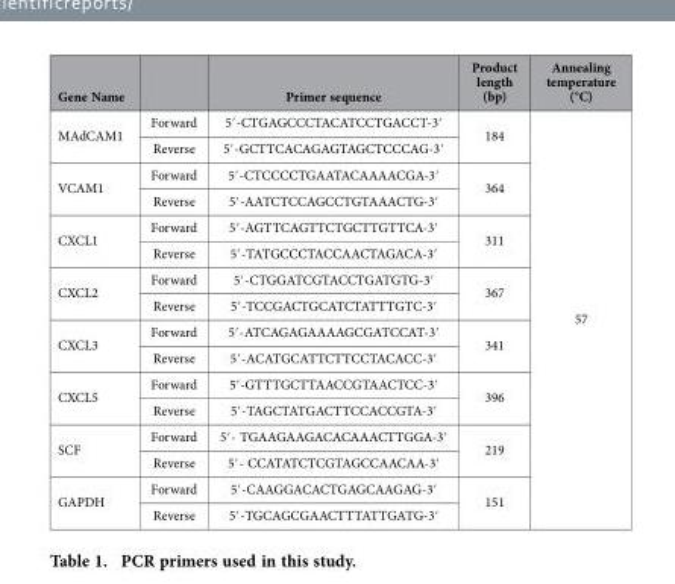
<table><thead><tr><td>Gene Name</td><td></td><td>Primer sequence</td><td>Product length (bp)</td><td>Annealing temperature (°C)</td></tr></thead><tbody><tr><td rowspan="2">MAdCAM1</td><td>Forward</td><td>5′ -CTGAGCCCTACATCCTGACCT-3′</td><td rowspan="2">184</td><td rowspan="16">57</td></tr><tr><td>Reverse</td><td>5′ -GCTTCACAGAGTAGCTCCCAG-3′</td></tr><tr><td rowspan="2">VCAM1</td><td>Forward</td><td>5′ -CTCCCCTGAATACAAAACGA-3′</td><td rowspan="2">364</td></tr><tr><td>Reverse</td><td>5′ -AATCTCCAGCCTGTAAACTG-3′</td></tr><tr><td rowspan="2">CXCL1</td><td>Forward</td><td>5′ -AGTTCAGTTCTGCTTGTTCA-3′</td><td rowspan="2">311</td></tr><tr><td>Reverse</td><td>5′ -TATGCCCTACCAACTAGACA-3′</td></tr><tr><td rowspan="2">CXCL2</td><td>Forward</td><td>5′ -CTGGATCGTACCTGATGTG-3′</td><td rowspan="2">367</td></tr><tr><td>Reverse</td><td>5′ -TCCGACTGCATCTATTTGTC-3′</td></tr><tr><td rowspan="2">CXCL3</td><td>Forward</td><td>5′ -ATCAGAGAAAAGCGATCCAT-3′</td><td rowspan="2">341</td></tr><tr><td>Reverse</td><td>5′ -ACATGCATTCTTCCTACACC-3′</td></tr><tr><td rowspan="2">CXCL5</td><td>Forward</td><td>5′ -GTTTGCTTAACCGTAACTCC-3′</td><td rowspan="2">396</td></tr><tr><td>Reverse</td><td>5′ -TAGCTATGACTTCCACCGTA-3′</td></tr><tr><td rowspan="2">SCF</td><td>Forward</td><td>5′ - TGAAGAAGACACAAACTTGGA-3′</td><td rowspan="2">219</td></tr><tr><td>Reverse</td><td>5′ - CCATATCTCGTAGCCAACAA-3′</td></tr><tr><td rowspan="2">GAPDH</td><td>Forward</td><td>5′ -CAAGGACACTGAGCAAGAG-3′</td><td rowspan="2">151</td></tr><tr><td>Reverse</td><td>5′ -TGCAGCGAACTTTATTGATG-3′</td></tr></tbody></table>